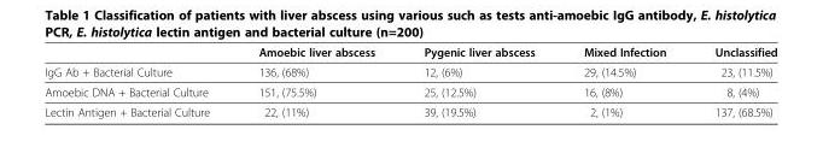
<table><thead><tr><td></td><td>Amoebic liver abscess</td><td>Pygenic liver abscess</td><td>Mixed Infection</td><td>Unclassified</td></tr></thead><tbody><tr><td>IgG Ab + Bacterial Culture</td><td>136, (68%)</td><td>12, (6%)</td><td>29, (14.5%)</td><td>23, (11.5%)</td></tr><tr><td>Amoebic DNA + Bacterial Culture</td><td>151, (75.5%)</td><td>25, (12.5%)</td><td>16, (8%)</td><td>8, (4%)</td></tr><tr><td>Lectin Antigen + Bacterial Culture</td><td>22, (11%)</td><td>39, (19.5%)</td><td>2, (1%)</td><td>137, (68.5%)</td></tr></tbody></table>